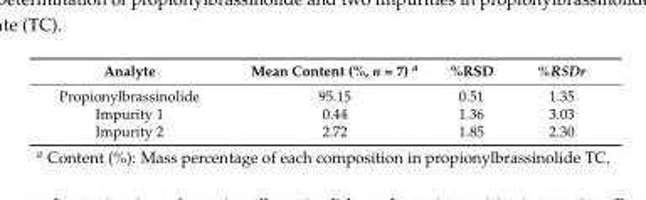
<table><thead><tr><td>Analyte</td><td>Mean Content (%, n = 7) <sup>a</sup></td><td>%RSD</td><td>%RSDr</td></tr></thead><tbody><tr><td>Propionylbrassinolide</td><td>95.15</td><td>0.51</td><td>1.35</td></tr><tr><td>Impurity 1</td><td>0.44</td><td>1.36</td><td>3.03</td></tr><tr><td>Impurity 2</td><td>2.72</td><td>1.85</td><td>2.30</td></tr></tbody></table>